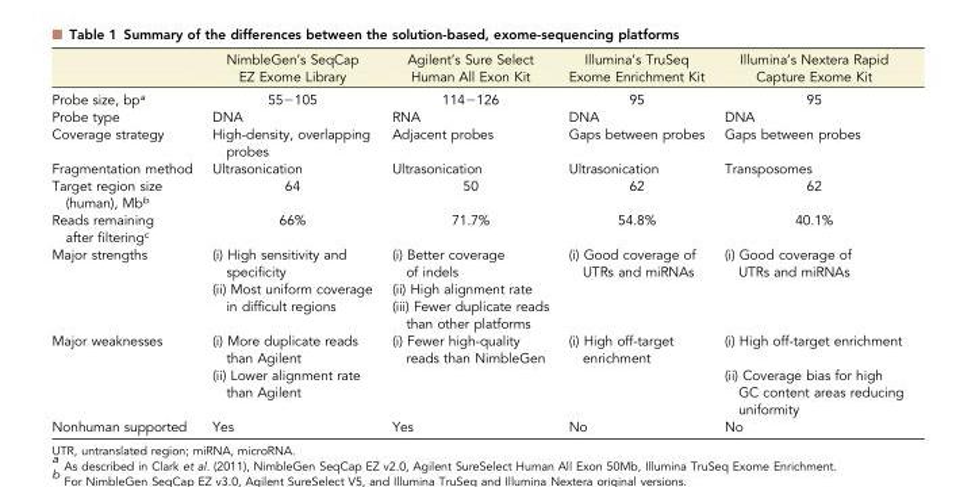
<table><thead><tr><td></td><td>NimbleGen’s SeqCap EZ Exome Library</td><td>Agilent’s Sure Select Human All Exon Kit</td><td>Illumina’s TruSeq Exome Enrichment Kit</td><td>Illumina’s Nextera Rapid Capture Exome Kit</td></tr></thead><tbody><tr><td>Probe size, bp<sup>a</sup></td><td>55−105</td><td>114−126</td><td>95</td><td>95</td></tr><tr><td>Probe type</td><td>DNA</td><td>RNA</td><td>DNA</td><td>DNA</td></tr><tr><td>Coverage strategy</td><td>High-density, overlapping probes</td><td>Adjacent probes</td><td>Gaps between probes</td><td>Gaps between probes</td></tr><tr><td>Fragmentation method</td><td>Ultrasonication</td><td>Ultrasonication</td><td>Ultrasonication</td><td>Transposomes</td></tr><tr><td>Target region size (human), Mb<sup>b</sup></td><td>64</td><td>50</td><td>62</td><td>62</td></tr><tr><td>Reads remaining after filtering<sup>c</sup></td><td>66%</td><td>71.7%</td><td>54.8%</td><td>40.1%</td></tr><tr><td rowspan="3">Major strengths</td><td>(i) High sensitivity and specificity</td><td>(i) Better coverage of indels</td><td rowspan="3">(i) Good coverage of UTRs and miRNAs</td><td rowspan="3">(i) Good coverage of UTRs and miRNAs</td></tr><tr><td rowspan="2">(ii) Most uniform coverage in difficult regions</td><td>(ii) High alignment rate</td></tr><tr><td>(iii) Fewer duplicate reads than other platforms</td></tr><tr><td rowspan="2">Major weaknesses</td><td>(i) More duplicate reads than Agilent</td><td rowspan="2">(i) Fewer high-quality reads than NimbleGen</td><td rowspan="2">(i) High off-target enrichment</td><td>(i) High off-target enrichment</td></tr><tr><td>(ii) Lower alignment rate than Agilent</td><td>(ii) Coverage bias for high GC content areas reducing uniformity</td></tr><tr><td>Nonhuman supported</td><td>Yes</td><td>Yes</td><td>No</td><td>No</td></tr></tbody></table>